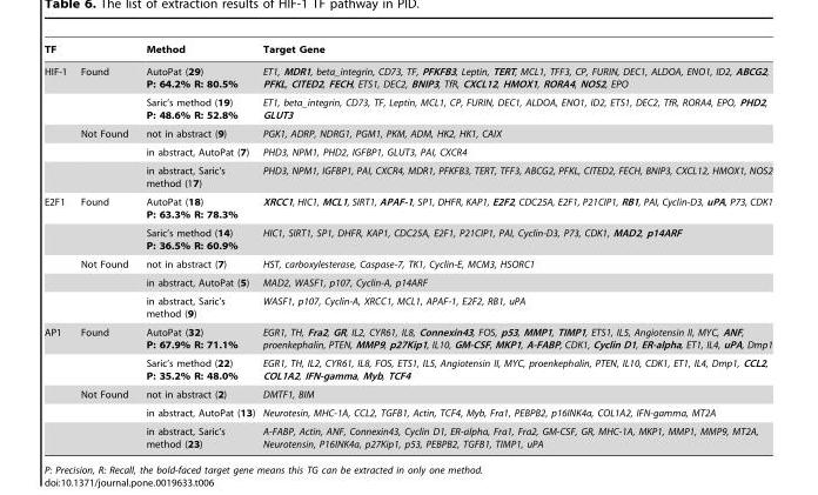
<table><thead><tr><td>TF</td><td></td><td>Method</td><td>Target Gene</td></tr></thead><tbody><tr><td rowspan="5">HIF-1</td><td>Found</td><td>AutoPat (29) P: 64.2% R: 80.5%</td><td>ET1, MDR1, beta_integrin, CD73, TF, PFKFB3, Leptin, TERT, MCL1, TFF3, CP, FURIN, DEC1, ALDOA, ENO1, ID2, ABCG2, PFKL, CITED2, FECH, ETS1, DEC2, BNIP3, TfR, CXCL12, HMOX1, RORA4, NOS2, EPO</td></tr><tr><td></td><td>Saric’s method (19) P: 48.6% R: 52.8%</td><td>ET1, beta_integrin, CD73, TF, Leptin, MCL1, CP, FURIN, DEC1, ALDOA, ENO1, ID2, ETS1, DEC2, TfR, RORA4, EPO, PHD2, GLUT3</td></tr><tr><td>Not Found</td><td>not in abstract (9)</td><td>PGK1, ADRP, NDRG1, PGM1, PKM, ADM, HK2, HK1, CAIX</td></tr><tr><td></td><td>in abstract, AutoPat (7)</td><td>PHD3, NPM1, PHD2, IGFBP1, GLUT3, PAI, CXCR4</td></tr><tr><td></td><td>in abstract, Saric’s method (17)</td><td>PHD3, NPM1, IGFBP1, PAI, CXCR4, MDR1, PFKFB3, TERT, TFF3, ABCG2, PFKL, CITED2, FECH, BNIP3, CXCL12, HMOX1, NOS2</td></tr><tr><td rowspan="5">E2F1</td><td>Found</td><td>AutoPat (18) P: 63.3% R: 78.3%</td><td>XRCC1, HIC1, MCL1, SIRT1, APAF-1, SP1, DHFR, KAP1, E2F2, CDC25A, E2F1, P21CIP1, RB1, PAI, Cyclin-D3, uPA, P73, CDK1</td></tr><tr><td></td><td>Saric’s method (14) P: 36.5% R: 60.9%</td><td>HIC1, SIRT1, SP1, DHFR, KAP1, CDC25A, E2F1, P21CIP1, PAI, Cyclin-D3, P73, CDK1, MAD2, p14ARF</td></tr><tr><td>Not Found</td><td>not in abstract (7)</td><td>HST, carboxylesterase, Caspase-7, TK1, Cyclin-E, MCM3, HSORC1</td></tr><tr><td></td><td>in abstract, AutoPat (5)</td><td>MAD2, WASF1, p107, Cyclin-A, p14ARF</td></tr><tr><td></td><td>in abstract, Saric’s method (9)</td><td>WASF1, p107, Cyclin-A, XRCC1, MCL1, APAF-1, E2F2, RB1, uPA</td></tr><tr><td rowspan="5">AP1</td><td>Found</td><td>AutoPat (32) P: 67.9% R: 71.1%</td><td>EGR1, TH, Fra2, GR, IL2, CYR61, IL8, Connexin43, FOS, p53, MMP1, TIMP1, ETS1, IL5, Angiotensin II, MYC, ANF, proenkephalin, PTEN, MMP9, p27Kip1, IL10, GM-CSF, MKP1, A-FABP, CDK1, Cyclin D1, ER-alpha, ET1, IL4, uPA, Dmp1</td></tr><tr><td></td><td>Saric’s method (22) P: 35.2% R: 48.0%</td><td>EGR1, TH, IL2, CYR61, IL8, FOS, ETS1, IL5, Angiotensin II, MYC, proenkephalin, PTEN, IL10, CDK1, ET1, IL4, Dmp1, CCL2, COL1A2, IFN-gamma, Myb, TCF4</td></tr><tr><td>Not Found</td><td>not in abstract (2)</td><td>DMTF1, BIM</td></tr><tr><td></td><td>in abstract, AutoPat (13)</td><td>Neurotesin, MHC-1A, CCL2, TGFB1, Actin, TCF4, Myb, Fra1, PEBPB2, p16INK4a, COL1A2, IFN-gamma, MT2A</td></tr><tr><td></td><td>in abstract, Saric’s method (23)</td><td>A-FABP, Actin, ANF, Connexin43, Cyclin D1, ER-alpha, Fra1, Fra2, GM-CSF, GR, MHC-1A, MKP1, MMP1, MMP9, MT2A, Neurotensin, P16INK4a, p27Kip1, p53, PEBPB2, TGFB1, TIMP1, uPA</td></tr></tbody></table>